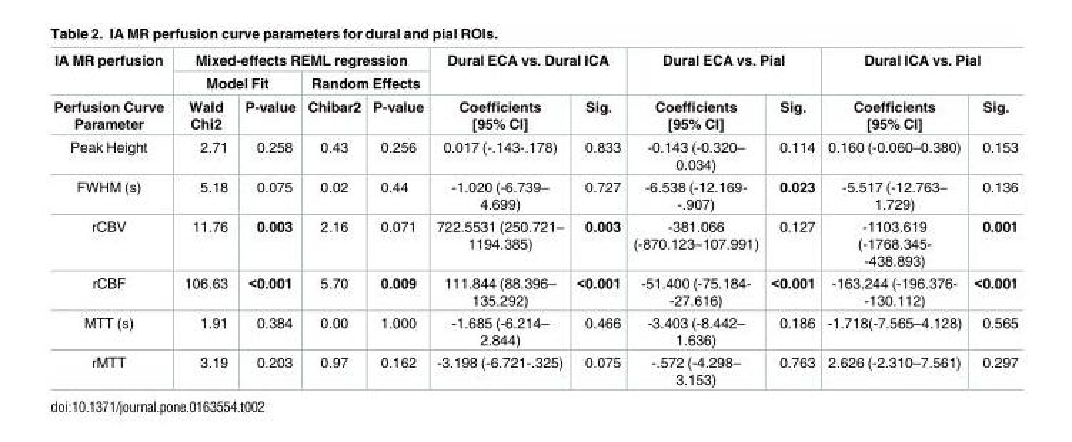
<table><thead><tr><td rowspan="3">IA MR perfusion Perfusion Curve Parameter</td><td colspan="4">Mixed-effects REML regression</td><td rowspan="2" colspan="2">Dural ECA vs. Dural ICA</td><td rowspan="2" colspan="2">Dural ECA vs. Pial</td><td rowspan="2" colspan="2">Dural ICA vs. Pial</td></tr><tr><td colspan="2">Model Fit</td><td colspan="2">Random Effects</td></tr><tr><td>Wald Chi2</td><td>P-value</td><td>Chibar2</td><td>P-value</td><td>Coefficients [95% CI]</td><td>Sig.</td><td>Coefficients [95% CI]</td><td>Sig.</td><td>Coefficients [95% CI]</td><td>Sig.</td></tr></thead><tbody><tr><td>Peak Height</td><td>2.71</td><td>0.258</td><td>0.43</td><td>0.256</td><td>0.017 (-.143-.178)</td><td>0.833</td><td>-0.143 (-0.320– 0.034)</td><td>0.114</td><td>0.160 (-0.060–0.380)</td><td>0.153</td></tr><tr><td>FWHM (s)</td><td>5.18</td><td>0.075</td><td>0.02</td><td>0.44</td><td>-1.020 (-6.739– 4.699)</td><td>0.727</td><td>-6.538 (-12.169- -.907)</td><td>0.023</td><td>-5.517 (-12.763– 1.729)</td><td>0.136</td></tr><tr><td>rCBV</td><td>11.76</td><td>0.003</td><td>2.16</td><td>0.071</td><td>722.5531 (250.721– 1194.385)</td><td>0.003</td><td>-381.066 (-870.123–107.991)</td><td>0.127</td><td>-1103.619 (-1768.345- -438.893)</td><td>0.001</td></tr><tr><td>rCBF</td><td>106.63</td><td>&lt;0.001</td><td>5.70</td><td>0.009</td><td>111.844 (88.396– 135.292)</td><td>&lt;0.001</td><td>-51.400 (-75.184- -27.616)</td><td>&lt;0.001</td><td>-163.244 (-196.376- -130.112)</td><td>&lt;0.001</td></tr><tr><td>MTT (s)</td><td>1.91</td><td>0.384</td><td>0.00</td><td>1.000</td><td>-1.685 (-6.214– 2.844)</td><td>0.466</td><td>-3.403 (-8.442– 1.636)</td><td>0.186</td><td>-1.718(-7.565–4.128)</td><td>0.565</td></tr><tr><td>rMTT</td><td>3.19</td><td>0.203</td><td>0.97</td><td>0.162</td><td>-3.198 (-6.721-.325)</td><td>0.075</td><td>-.572 (-4.298– 3.153)</td><td>0.763</td><td>2.626 (-2.310–7.561)</td><td>0.297</td></tr></tbody></table>